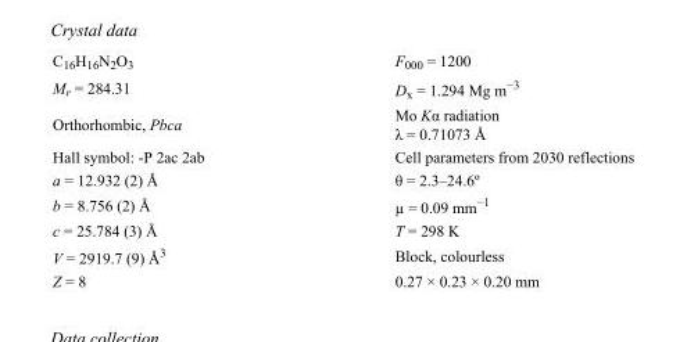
<table><tbody><tr><td>C<sub>16</sub>H<sub>16</sub>N<sub>2</sub>O<sub>3</sub></td><td>F000 = 1200</td></tr><tr><td>M<sub>r</sub> = 284.31</td><td>D<sub>x</sub> = 1.294 Mg m<sup>−3</sup></td></tr><tr><td>Orthorhombic, Pbca</td><td>Mo Kα radiation λ = 0.71073 Å</td></tr><tr><td>Hall symbol: -P 2ac 2ab</td><td>Cell parameters from 2030 reflections</td></tr><tr><td>a = 12.932 (2) Å</td><td>θ = 2.3–24.6º</td></tr><tr><td>b = 8.756 (2) Å</td><td>µ = 0.09 mm<sup>−1</sup></td></tr><tr><td>c = 25.784 (3) Å</td><td>T = 298 K</td></tr><tr><td>V = 2919.7 (9) Å<sup>3</sup></td><td>Block, colourless</td></tr><tr><td>Z = 8</td><td>0.27 × 0.23 × 0.20 mm</td></tr></tbody></table>